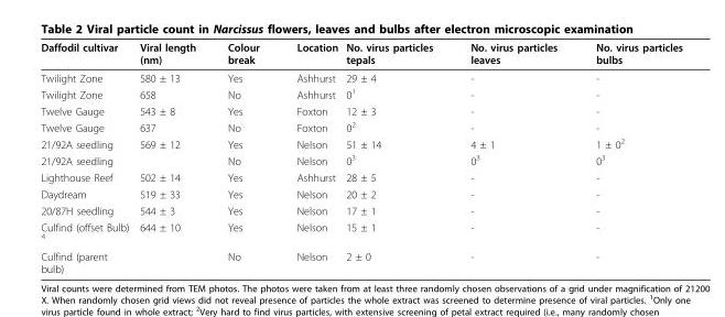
<table><thead><tr><td>Daffodil cultivar</td><td>Viral length (nm)</td><td>Colour break</td><td>Location</td><td>No. virus particles tepals</td><td>No. virus particles leaves</td><td>No. virus particles bulbs</td></tr></thead><tbody><tr><td>Twilight Zone</td><td>580 ± 13</td><td>Yes</td><td>Ashhurst</td><td>29 ± 4</td><td>-</td><td>-</td></tr><tr><td>Twilight Zone</td><td>658</td><td>No</td><td>Ashhurst</td><td>0<sup>1</sup></td><td>-</td><td>-</td></tr><tr><td>Twelve Gauge</td><td>543 ± 8</td><td>Yes</td><td>Foxton</td><td>12 ± 3</td><td>-</td><td>-</td></tr><tr><td>Twelve Gauge</td><td>637</td><td>No</td><td>Foxton</td><td>0<sup>2</sup></td><td>-</td><td>-</td></tr><tr><td>21/92A seedling</td><td>569 ± 12</td><td>Yes</td><td>Nelson</td><td>51 ± 14</td><td>4 ± 1</td><td>1 ± 0<sup>2</sup></td></tr><tr><td>21/92A seedling</td><td></td><td>No</td><td>Nelson</td><td>0<sup>3</sup></td><td>0<sup>3</sup></td><td>0<sup>3</sup></td></tr><tr><td>Lighthouse Reef</td><td>502 ± 14</td><td>Yes</td><td>Ashhurst</td><td>28 ± 5</td><td>-</td><td>-</td></tr><tr><td>Daydream</td><td>519 ± 33</td><td>Yes</td><td>Nelson</td><td>20 ± 2</td><td>-</td><td>-</td></tr><tr><td>20/87H seedling</td><td>544 ± 3</td><td>Yes</td><td>Nelson</td><td>17 ± 1</td><td>-</td><td>-</td></tr><tr><td>Culfind (offset Bulb) <sup>4</sup></td><td>644 ± 10</td><td>Yes</td><td>Nelson</td><td>15 ± 1</td><td>-</td><td>-</td></tr><tr><td>Culfind (parent bulb)</td><td></td><td>No</td><td>Nelson</td><td>2 ± 0</td><td>-</td><td>-</td></tr></tbody></table>